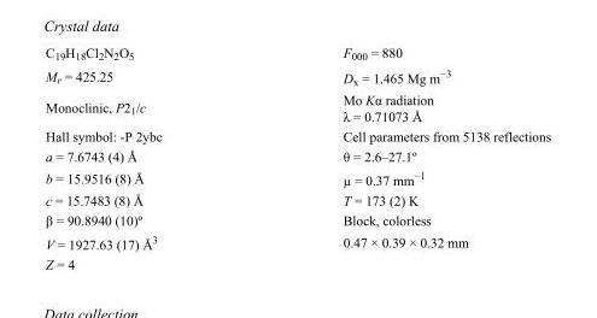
<table><tbody><tr><td>C<sub>19</sub>H<sub>18</sub>Cl<sub>2</sub>N<sub>2</sub>O<sub>5</sub></td><td>F<sub>000</sub> = 880</td></tr><tr><td>M<sub>r</sub> = 425.25</td><td>D<sub>x</sub> = 1.465 Mg m<sup>−3</sup></td></tr><tr><td>Monoclinic, P2<sub>1</sub>/c</td><td>Mo Kα radiation λ = 0.71073 Å</td></tr><tr><td>Hall symbol: -P 2ybc</td><td>Cell parameters from 5138 reflections</td></tr><tr><td>a = 7.6743 (4) Å</td><td>θ = 2.6–27.1º</td></tr><tr><td>b = 15.9516 (8) Å</td><td>µ = 0.37 mm<sup>−1</sup></td></tr><tr><td>c = 15.7483 (8) Å</td><td>T = 173 (2) K</td></tr><tr><td>β = 90.8940 (10)º</td><td>Block, colorless</td></tr><tr><td>V = 1927.63 (17) Å<sup>3</sup></td><td>0.47 × 0.39 × 0.32 mm</td></tr><tr><td>Z = 4</td><td></td></tr></tbody></table>